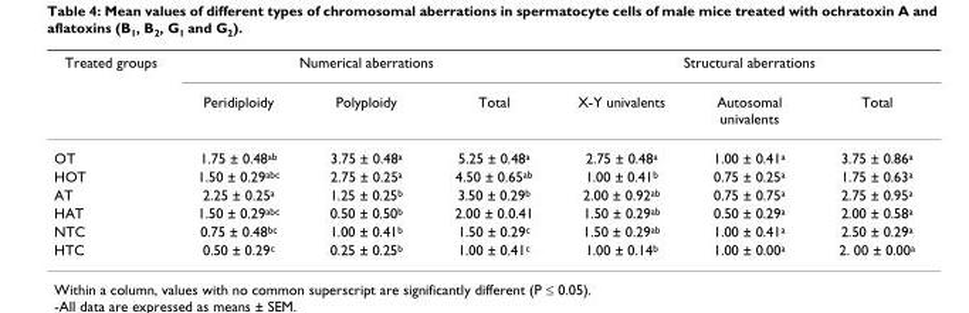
<table><thead><tr><td rowspan="2">Treated groups</td><td colspan="3">Numerical aberrations</td><td colspan="3">Structural aberrations</td></tr><tr><td>Peridiploidy</td><td>Polyploidy</td><td>Total</td><td>X-Y univalents</td><td>Autosomal univalents</td><td>Total</td></tr></thead><tbody><tr><td>OT</td><td>1.75 ± 0.48<sup>ab</sup></td><td>3.75 ± 0.48<sup>a</sup></td><td>5.25 ± 0.48<sup>a</sup></td><td>2.75 ± 0.48<sup>a</sup></td><td>1.00 ± 0.41<sup>a</sup></td><td>3.75 ± 0.86<sup>a</sup></td></tr><tr><td>HOT</td><td>1.50 ± 0.29<sup>abc</sup></td><td>2.75 ± 0.25<sup>a</sup></td><td>4.50 ± 0.65<sup>ab</sup></td><td>1.00 ± 0.41<sup>b</sup></td><td>0.75 ± 0.25<sup>a</sup></td><td>1.75 ± 0.63<sup>a</sup></td></tr><tr><td>AT</td><td>2.25 ± 0.25<sup>a</sup></td><td>1.25 ± 0.25<sup>b</sup></td><td>3.50 ± 0.29<sup>b</sup></td><td>2.00 ± 0.92<sup>ab</sup></td><td>0.75 ± 0.75<sup>a</sup></td><td>2.75 ± 0.95<sup>a</sup></td></tr><tr><td>HAT</td><td>1.50 ± 0.29<sup>abc</sup></td><td>0.50 ± 0.50<sup>b</sup></td><td>2.00 ± 0.0.41</td><td>1.50 ± 0.29<sup>ab</sup></td><td>0.50 ± 0.29<sup>a</sup></td><td>2.00 ± 0.58<sup>a</sup></td></tr><tr><td>NTC</td><td>0.75 ± 0.48<sup>bc</sup></td><td>1.00 ± 0.41<sup>b</sup></td><td>1.50 ± 0.29<sup>c</sup></td><td>1.50 ± 0.29<sup>ab</sup></td><td>1.00 ± 0.41<sup>a</sup></td><td>2.50 ± 0.29<sup>a</sup></td></tr><tr><td>HTC</td><td>0.50 ± 0.29<sup>c</sup></td><td>0.25 ± 0.25<sup>b</sup></td><td>1.00 ± 0.41<sup>c</sup></td><td>1.00 ± 0.14<sup>b</sup></td><td>1.00 ± 0.00<sup>a</sup></td><td>2. 00 ± 0.00<sup>a</sup></td></tr></tbody></table>